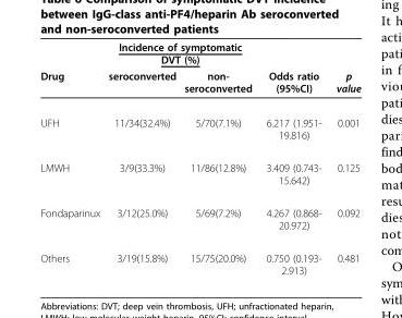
<table><thead><tr><td rowspan="2">Drug</td><td colspan="2">Incidence of symptomatic DVT (%)</td><td rowspan="2">Odds ratio (95%CI)</td><td rowspan="2">p value</td></tr><tr><td>seroconverted</td><td>non- seroconverted</td></tr></thead><tbody><tr><td>UFH</td><td>11/34(32.4%)</td><td>5/70(7.1%)</td><td>6.217 (1.951- 19.816)</td><td>0.001</td></tr><tr><td>LMWH</td><td>3/9(33.3%)</td><td>11/86(12.8%)</td><td>3.409 (0.743- 15.642)</td><td>0.125</td></tr><tr><td>Fondaparinux</td><td>3/12(25.0%)</td><td>5/69(7.2%)</td><td>4.267 (0.868- 20.972)</td><td>0.092</td></tr><tr><td>Others</td><td>3/19(15.8%)</td><td>15/75(20.0%)</td><td>0.750 (0.193- 2.913)</td><td>0.481</td></tr></tbody></table>